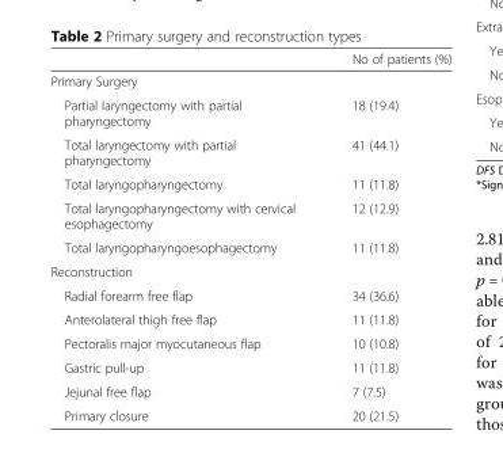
<table><thead><tr><td></td><td>No of patients (%)</td></tr></thead><tbody><tr><td colspan="2">Primary Surgery</td></tr><tr><td>Partial laryngectomy with partial pharyngectomy</td><td>18 (19.4)</td></tr><tr><td>Total laryngectomy with partial pharyngectomy</td><td>41 (44.1)</td></tr><tr><td>Total laryngopharyngectomy</td><td>11 (11.8)</td></tr><tr><td>Total laryngopharyngectomy with cervical esophagectomy</td><td>12 (12.9)</td></tr><tr><td>Total laryngopharyngoesophagectomy</td><td>11 (11.8)</td></tr><tr><td colspan="2">Reconstruction</td></tr><tr><td>Radial forearm free flap</td><td>34 (36.6)</td></tr><tr><td>Anterolateral thigh free flap</td><td>11 (11.8)</td></tr><tr><td>Pectoralis major myocutaneous flap</td><td>10 (10.8)</td></tr><tr><td>Gastric pull-up</td><td>11 (11.8)</td></tr><tr><td>Jejunal free flap</td><td>7 (7.5)</td></tr><tr><td>Primary closure</td><td>20 (21.5)</td></tr></tbody></table>